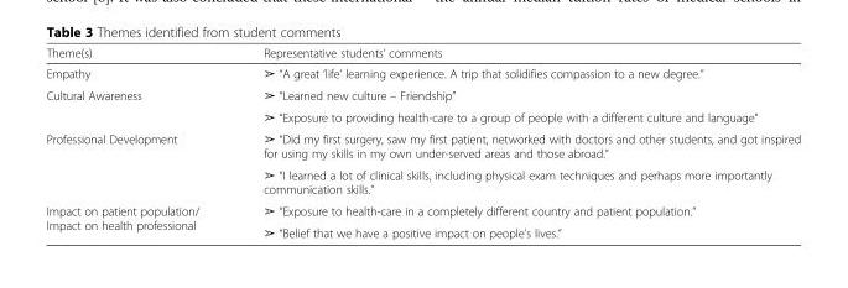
<table><thead><tr><td>Theme(s)</td><td>Representative students’ comments</td></tr></thead><tbody><tr><td>Empathy</td><td>➢ “A great ‘life’ learning experience. A trip that solidifies compassion to a new degree.”</td></tr><tr><td rowspan="2">Cultural Awareness</td><td>➢ “Learned new culture – Friendship”</td></tr><tr><td>➢ “Exposure to providing health-care to a group of people with a different culture and language”</td></tr><tr><td rowspan="2">Professional Development</td><td>➢ “Did my first surgery, saw my first patient, networked with doctors and other students, and got inspired for using my skills in my own under-served areas and those abroad.”</td></tr><tr><td>➢ “I learned a lot of clinical skills, including physical exam techniques and perhaps more importantly communication skills.”</td></tr><tr><td rowspan="2">Impact on patient population/ Impact on health professional</td><td>➢ “Exposure to health-care in a completely different country and patient population.”</td></tr><tr><td>➢ “Belief that we have a positive impact on people’s lives.”</td></tr></tbody></table>